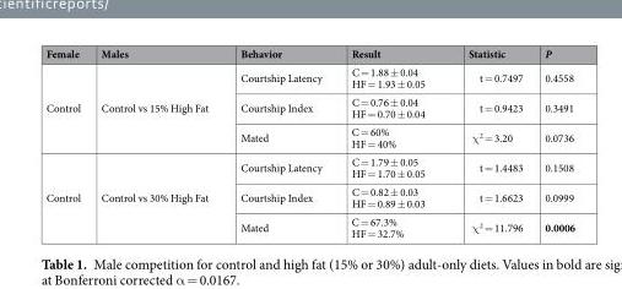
<table><thead><tr><td>Female</td><td>Males</td><td>Behavior</td><td>Result</td><td>Statistic</td><td>P</td></tr></thead><tbody><tr><td rowspan="3">Control</td><td rowspan="3">Control vs 15% High Fat</td><td>Courtship Latency</td><td>C = 1.88 ± 0.04 HF = 1.93 ± 0.05</td><td>t = 0.7497</td><td>0.4558</td></tr><tr><td>Courtship Index</td><td>C = 0.76 ± 0.04 HF = 0.70 ± 0.04</td><td>t = 0.9423</td><td>0.3491</td></tr><tr><td>Mated</td><td>C = 60% HF = 40%</td><td>χ<sup>2</sup> = 3.20</td><td>0.0736</td></tr><tr><td rowspan="3">Control</td><td rowspan="3">Control vs 30% High Fat</td><td>Courtship Latency</td><td>C = 1.79 ± 0.05 HF = 1.70 ± 0.05</td><td>t = 1.4483</td><td>0.1508</td></tr><tr><td>Courtship Index</td><td>C = 0.82 ± 0.03 HF = 0.89 ± 0.03</td><td>t = 1.6623</td><td>0.0999</td></tr><tr><td>Mated</td><td>C = 67.3% HF = 32.7%</td><td>χ<sup>2</sup> = 11.796</td><td>0.0006</td></tr></tbody></table>